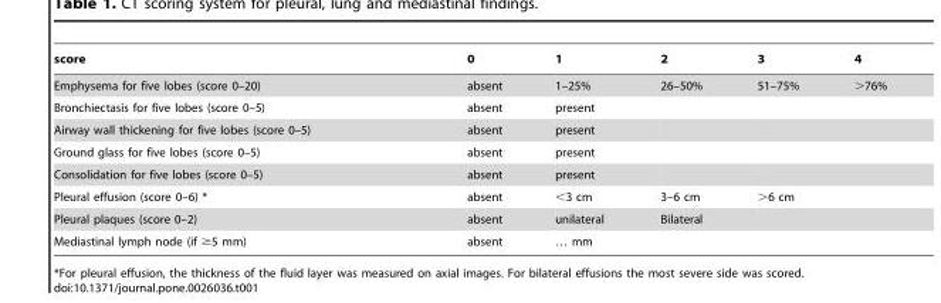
<table><thead><tr><td>score</td><td>0</td><td>1</td><td>2</td><td>3</td><td>4</td></tr></thead><tbody><tr><td>Emphysema for five lobes (score 0–20)</td><td>absent</td><td>1–25%</td><td>26–50%</td><td>51–75%</td><td>&gt;76%</td></tr><tr><td>Bronchiectasis for five lobes (score 0–5)</td><td>absent</td><td>present</td><td></td><td></td><td></td></tr><tr><td>Airway wall thickening for five lobes (score 0–5)</td><td>absent</td><td>present</td><td></td><td></td><td></td></tr><tr><td>Ground glass for five lobes (score 0–5)</td><td>absent</td><td>present</td><td></td><td></td><td></td></tr><tr><td>Consolidation for five lobes (score 0–5)</td><td>absent</td><td>present</td><td></td><td></td><td></td></tr><tr><td>Pleural effusion (score 0–6) *</td><td>absent</td><td>&lt;3 cm</td><td>3–6 cm</td><td>&gt;6 cm</td><td></td></tr><tr><td>Pleural plaques (score 0–2)</td><td>absent</td><td>unilateral</td><td>Bilateral</td><td></td><td></td></tr><tr><td>Mediastinal lymph node (if ≥5 mm)</td><td>absent</td><td>… mm</td><td></td><td></td><td></td></tr></tbody></table>